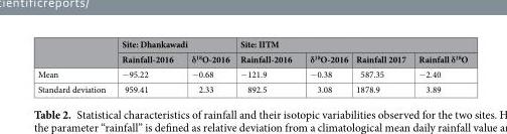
<table><thead><tr><td rowspan="2"></td><td colspan="2">Site: Dhankawadi</td><td colspan="4">Site: IITM</td></tr><tr><td>Rainfall-2016</td><td>δ<sup>18</sup>O-2016</td><td>Rainfall-2016</td><td>δ<sup>18</sup>O-2016</td><td>Rainfall 2017</td><td>Rainfall δ<sup>18</sup>O</td></tr></thead><tbody><tr><td>Mean</td><td>−95.22</td><td>−0.68</td><td>−121.9</td><td>−0.38</td><td>587.35</td><td>−2.40</td></tr><tr><td>Standard deviation</td><td>959.41</td><td>2.33</td><td>892.5</td><td>3.08</td><td>1878.9</td><td>3.89</td></tr></tbody></table>